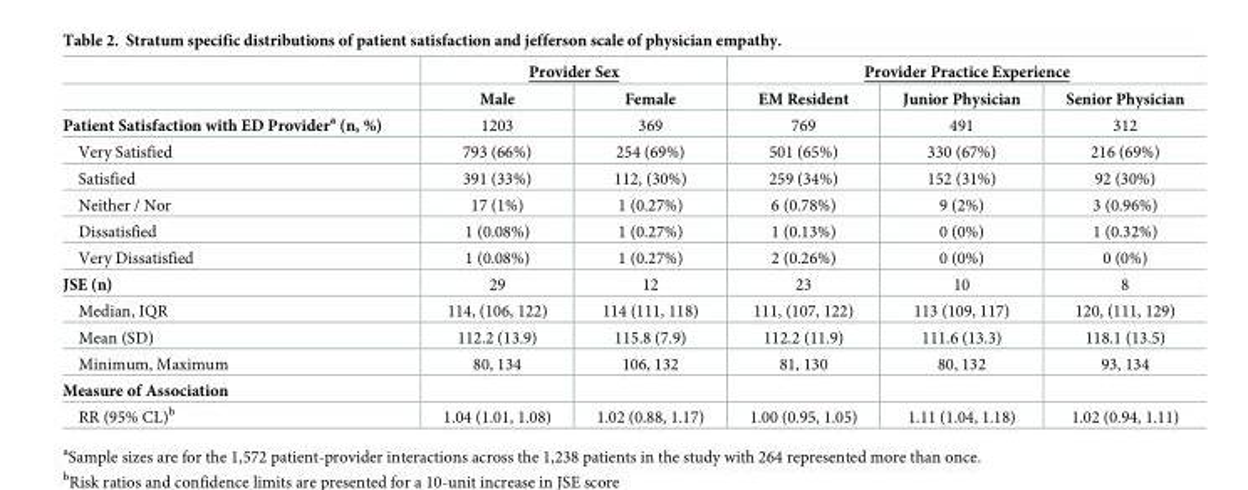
<table><thead><tr><td rowspan="2"></td><td colspan="2">Provider Sex</td><td colspan="3">Provider Practice Experience</td></tr><tr><td>Male</td><td>Female</td><td>EM Resident</td><td>Junior Physician</td><td>Senior Physician</td></tr></thead><tbody><tr><td>Patient Satisfaction with ED Provider<sup>a</sup> (n, %)</td><td>1203</td><td>369</td><td>769</td><td>491</td><td>312</td></tr><tr><td>Very Satisfied</td><td>793 (66%)</td><td>254 (69%)</td><td>501 (65%)</td><td>330 (67%)</td><td>216 (69%)</td></tr><tr><td>Satisfied</td><td>391 (33%)</td><td>112, (30%)</td><td>259 (34%)</td><td>152 (31%)</td><td>92 (30%)</td></tr><tr><td>Neither / Nor</td><td>17 (1%)</td><td>1 (0.27%)</td><td>6 (0.78%)</td><td>9 (2%)</td><td>3 (0.96%)</td></tr><tr><td>Dissatisfied</td><td>1 (0.08%)</td><td>1 (0.27%)</td><td>1 (0.13%)</td><td>0 (0%)</td><td>1 (0.32%)</td></tr><tr><td>Very Dissatisfied</td><td>1 (0.08%)</td><td>1 (0.27%)</td><td>2 (0.26%)</td><td>0 (0%)</td><td>0 (0%)</td></tr><tr><td>JSE (n)</td><td>29</td><td>12</td><td>23</td><td>10</td><td>8</td></tr><tr><td>Median, IQR</td><td>114, (106, 122)</td><td>114 (111, 118)</td><td>111, (107, 122)</td><td>113 (109, 117)</td><td>120, (111, 129)</td></tr><tr><td>Mean (SD)</td><td>112.2 (13.9)</td><td>115.8 (7.9)</td><td>112.2 (11.9)</td><td>111.6 (13.3)</td><td>118.1 (13.5)</td></tr><tr><td>Minimum, Maximum</td><td>80, 134</td><td>106, 132</td><td>81, 130</td><td>80, 132</td><td>93, 134</td></tr><tr><td colspan="6">Measure of Association</td></tr><tr><td>RR (95% CL)<sup>b</sup></td><td>1.04 (1.01, 1.08)</td><td>1.02 (0.88, 1.17)</td><td>1.00 (0.95, 1.05)</td><td>1.11 (1.04, 1.18)</td><td>1.02 (0.94, 1.11)</td></tr></tbody></table>